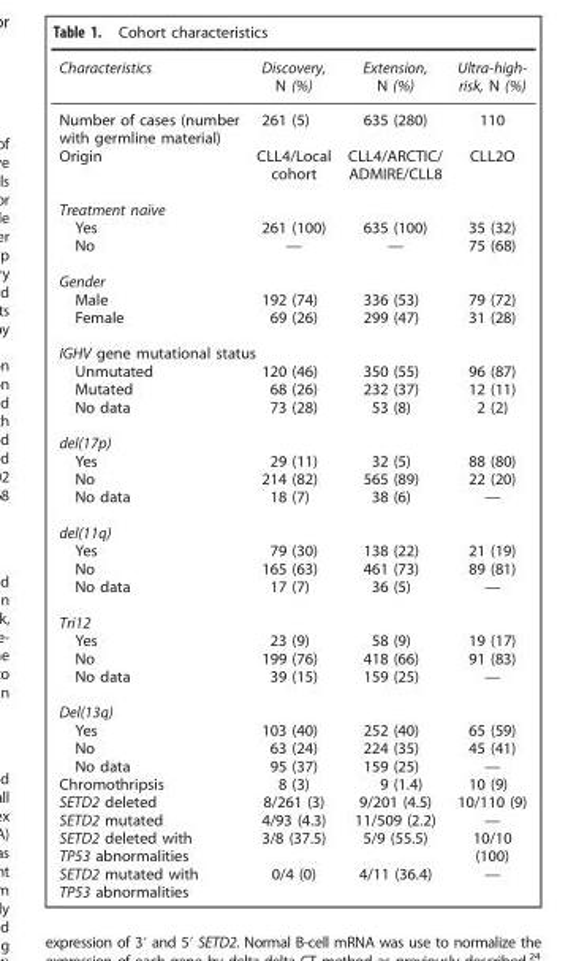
<table><thead><tr><td>Characteristics</td><td>Discovery, N (%)</td><td>Extension, N (%)</td><td>Ultra-high- risk, N (%)</td></tr></thead><tbody><tr><td>Number of cases (number with germline material)</td><td>261 (5)</td><td>635 (280)</td><td>110</td></tr><tr><td>Origin</td><td>CLL4/Local cohort</td><td>CLL4/ARCTIC/ ADMIRE/CLL8</td><td>CLL2O</td></tr><tr><td colspan="4">Treatment naïve</td></tr><tr><td>Yes</td><td>261 (100)</td><td>635 (100)</td><td>35 (32)</td></tr><tr><td>No</td><td>—</td><td>—</td><td>75 (68)</td></tr><tr><td colspan="4">Gender</td></tr><tr><td>Male</td><td>192 (74)</td><td>336 (53)</td><td>79 (72)</td></tr><tr><td>Female</td><td>69 (26)</td><td>299 (47)</td><td>31 (28)</td></tr><tr><td colspan="4">IGHV gene mutational status</td></tr><tr><td>Unmutated</td><td>120 (46)</td><td>350 (55)</td><td>96 (87)</td></tr><tr><td>Mutated</td><td>68 (26)</td><td>232 (37)</td><td>12 (11)</td></tr><tr><td>No data</td><td>73 (28)</td><td>53 (8)</td><td>2 (2)</td></tr><tr><td colspan="4">del(17p)</td></tr><tr><td>Yes</td><td>29 (11)</td><td>32 (5)</td><td>88 (80)</td></tr><tr><td>No</td><td>214 (82)</td><td>565 (89)</td><td>22 (20)</td></tr><tr><td>No data</td><td>18 (7)</td><td>38 (6)</td><td>—</td></tr><tr><td colspan="4">del(11q)</td></tr><tr><td>Yes</td><td>79 (30)</td><td>138 (22)</td><td>21 (19)</td></tr><tr><td>No</td><td>165 (63)</td><td>461 (73)</td><td>89 (81)</td></tr><tr><td>No data</td><td>17 (7)</td><td>36 (5)</td><td>—</td></tr><tr><td colspan="4">Tri12</td></tr><tr><td>Yes</td><td>23 (9)</td><td>58 (9)</td><td>19 (17)</td></tr><tr><td>No</td><td>199 (76)</td><td>418 (66)</td><td>91 (83)</td></tr><tr><td>No data</td><td>39 (15)</td><td>159 (25)</td><td>—</td></tr><tr><td colspan="4">Del(13q)</td></tr><tr><td>Yes</td><td>103 (40)</td><td>252 (40)</td><td>65 (59)</td></tr><tr><td>No</td><td>63 (24)</td><td>224 (35)</td><td>45 (41)</td></tr><tr><td>No data</td><td>95 (37)</td><td>159 (25)</td><td>—</td></tr><tr><td>Chromothripsis</td><td>8 (3)</td><td>9 (1.4)</td><td>10 (9)</td></tr><tr><td>SETD2 deleted</td><td>8/261 (3)</td><td>9/201 (4.5)</td><td>10/110 (9)</td></tr><tr><td>SETD2 mutated</td><td>4/93 (4.3)</td><td>11/509 (2.2)</td><td>—</td></tr><tr><td>SETD2 deleted with TP53 abnormalities</td><td>3/8 (37.5)</td><td>5/9 (55.5)</td><td>10/10 (100)</td></tr><tr><td>SETD2 mutated with TP53 abnormalities</td><td>0/4 (0)</td><td>4/11 (36.4)</td><td>—</td></tr></tbody></table>